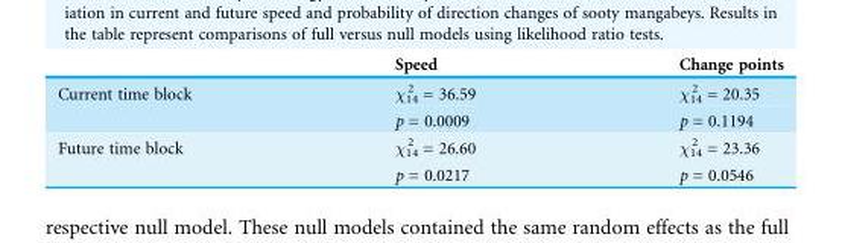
<table><thead><tr><td></td><td>Speed</td><td>Change points</td></tr></thead><tbody><tr><td rowspan="2">Current time block</td><td>χ<sub>14</sub> <sup>2</sup> = 36.59</td><td>χ<sub>14</sub> <sup>2</sup> = 20.35</td></tr><tr><td>p = 0.0009</td><td>p = 0.1194</td></tr><tr><td rowspan="2">Future time block</td><td>χ<sub>14</sub> <sup>2</sup> = 26.60</td><td>χ<sub>14</sub> <sup>2</sup> = 23.36</td></tr><tr><td>p = 0.0217</td><td>p = 0.0546</td></tr></tbody></table>